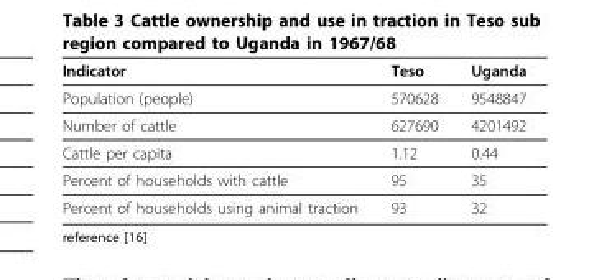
<table><thead><tr><td>Indicator</td><td>Teso</td><td>Uganda</td></tr></thead><tbody><tr><td>Population (people)</td><td>570628</td><td>9548847</td></tr><tr><td>Number of cattle</td><td>627690</td><td>4201492</td></tr><tr><td>Cattle per capita</td><td>1.12</td><td>0.44</td></tr><tr><td>Percent of households with cattle</td><td>95</td><td>35</td></tr><tr><td>Percent of households using animal traction</td><td>93</td><td>32</td></tr></tbody></table>